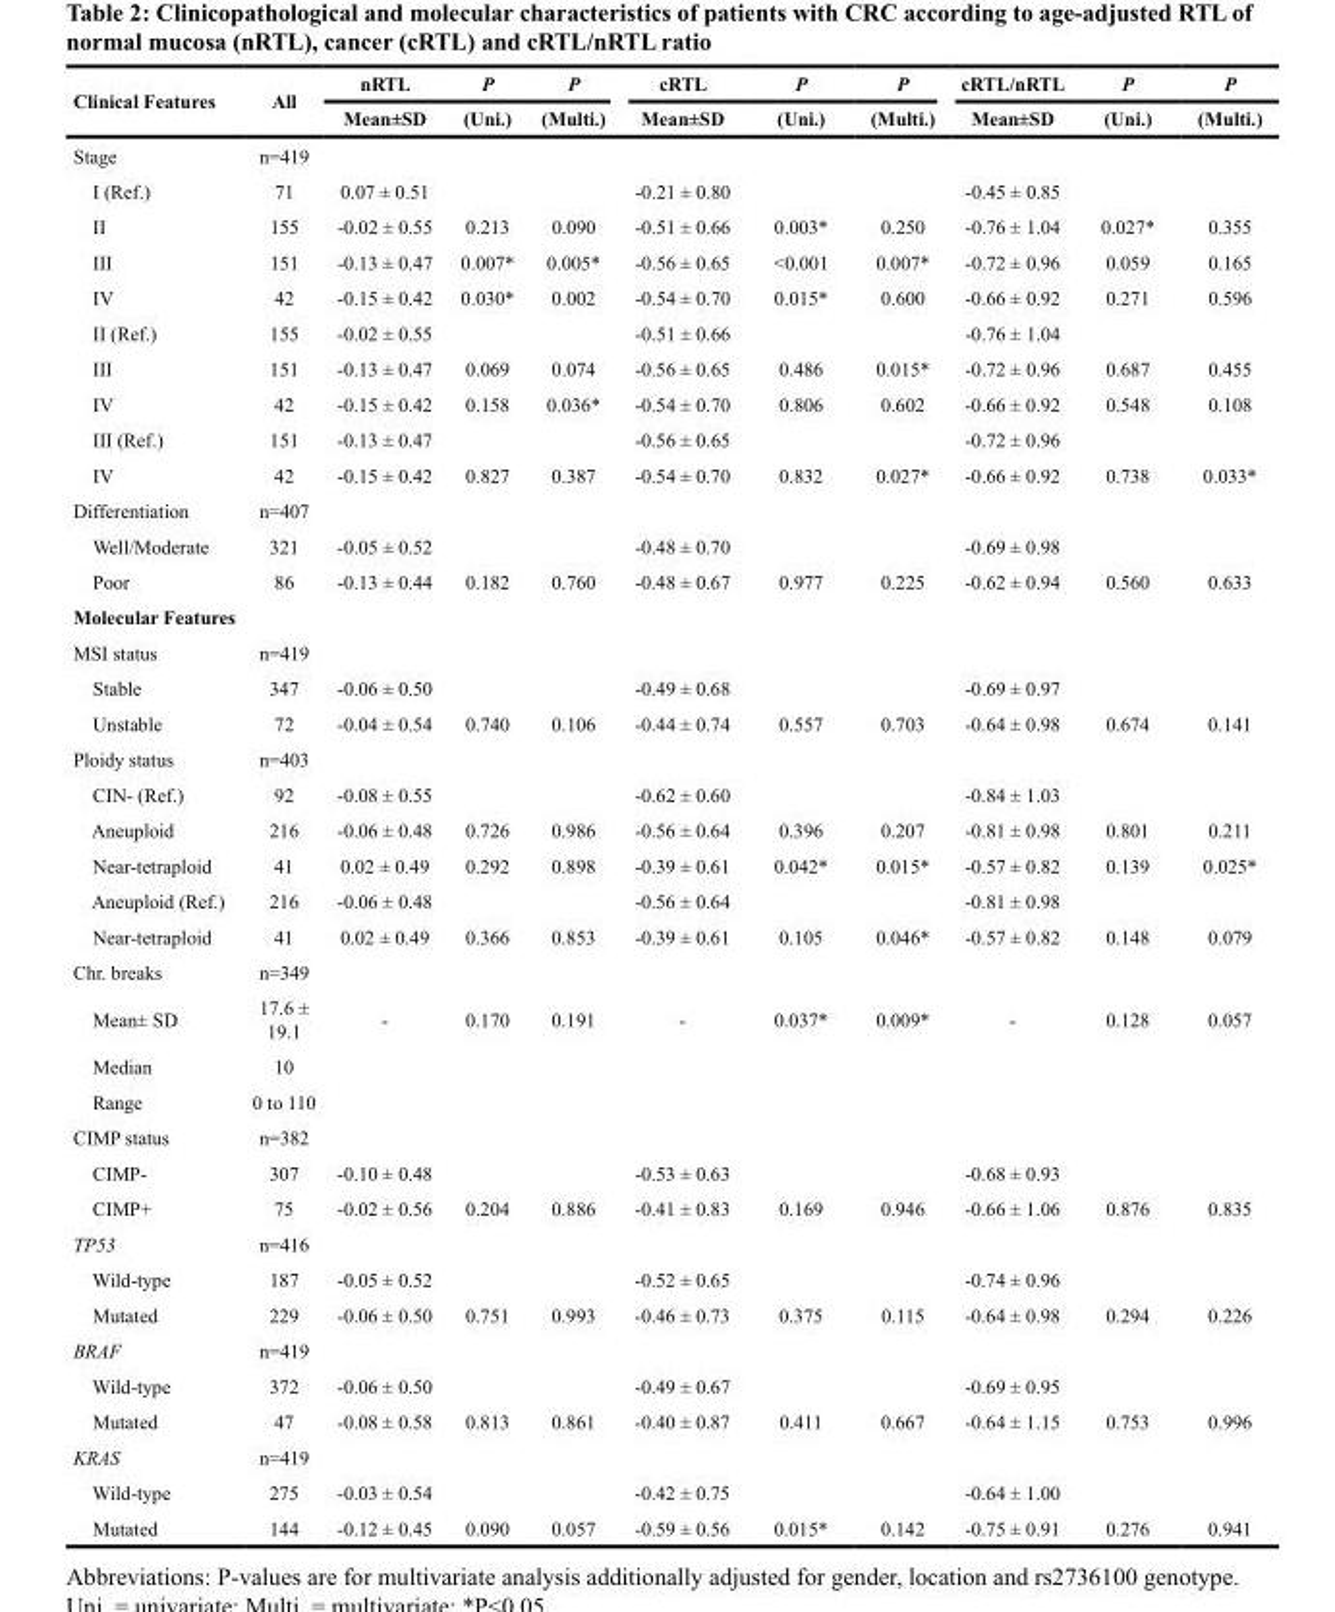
<table><thead><tr><td rowspan="2">Clinical Features</td><td rowspan="2">All</td><td rowspan="2">nRTL Mean±SD</td><td rowspan="2">P (Uni.)</td><td rowspan="2">P (Multi.)</td><td rowspan="2">cRTL Mean±SD</td><td rowspan="2">P (Uni.)</td><td rowspan="2">P (Multi.)</td><td rowspan="2">cRTL/nRTL Mean±SD</td><td rowspan="2">P (Uni.)</td><td rowspan="2">P (Multi.)</td></tr><tr></tr></thead><tbody><tr><td>Stage</td><td>n=419</td><td></td><td></td><td></td><td></td><td></td><td></td><td></td><td></td><td></td></tr><tr><td>I (Ref.)</td><td>71</td><td>0.07 ± 0.51</td><td></td><td></td><td>-0.21 ± 0.80</td><td></td><td></td><td>-0.45 ± 0.85</td><td></td><td></td></tr><tr><td>II</td><td>155</td><td>-0.02 ± 0.55</td><td>0.213</td><td>0.090</td><td>-0.51 ± 0.66</td><td>0.003*</td><td>0.250</td><td>-0.76 ± 1.04</td><td>0.027*</td><td>0.355</td></tr><tr><td>III</td><td>151</td><td>-0.13 ± 0.47</td><td>0.007*</td><td>0.005*</td><td>-0.56 ± 0.65</td><td>&lt;0.001</td><td>0.007*</td><td>-0.72 ± 0.96</td><td>0.059</td><td>0.165</td></tr><tr><td>IV</td><td>42</td><td>-0.15 ± 0.42</td><td>0.030*</td><td>0.002</td><td>-0.54 ± 0.70</td><td>0.015*</td><td>0.600</td><td>-0.66 ± 0.92</td><td>0.271</td><td>0.596</td></tr><tr><td>II (Ref.)</td><td>155</td><td>-0.02 ± 0.55</td><td></td><td></td><td>-0.51 ± 0.66</td><td></td><td></td><td>-0.76 ± 1.04</td><td></td><td></td></tr><tr><td>III</td><td>151</td><td>-0.13 ± 0.47</td><td>0.069</td><td>0.074</td><td>-0.56 ± 0.65</td><td>0.486</td><td>0.015*</td><td>-0.72 ± 0.96</td><td>0.687</td><td>0.455</td></tr><tr><td>IV</td><td>42</td><td>-0.15 ± 0.42</td><td>0.158</td><td>0.036*</td><td>-0.54 ± 0.70</td><td>0.806</td><td>0.602</td><td>-0.66 ± 0.92</td><td>0.548</td><td>0.108</td></tr><tr><td>III (Ref.)</td><td>151</td><td>-0.13 ± 0.47</td><td></td><td></td><td>-0.56 ± 0.65</td><td></td><td></td><td>-0.72 ± 0.96</td><td></td><td></td></tr><tr><td>IV</td><td>42</td><td>-0.15 ± 0.42</td><td>0.827</td><td>0.387</td><td>-0.54 ± 0.70</td><td>0.832</td><td>0.027*</td><td>-0.66 ± 0.92</td><td>0.738</td><td>0.033*</td></tr><tr><td>Differentiation</td><td>n=407</td><td></td><td></td><td></td><td></td><td></td><td></td><td></td><td></td><td></td></tr><tr><td>Well/Moderate</td><td>321</td><td>-0.05 ± 0.52</td><td></td><td></td><td>-0.48 ± 0.70</td><td></td><td></td><td>-0.69 ± 0.98</td><td></td><td></td></tr><tr><td>Poor</td><td>86</td><td>-0.13 ± 0.44</td><td>0.182</td><td>0.760</td><td>-0.48 ± 0.67</td><td>0.977</td><td>0.225</td><td>-0.62 ± 0.94</td><td>0.560</td><td>0.633</td></tr><tr><td colspan="11">Molecular Features</td></tr><tr><td>MSI status</td><td>n=419</td><td></td><td></td><td></td><td></td><td></td><td></td><td></td><td></td><td></td></tr><tr><td>Stable</td><td>347</td><td>-0.06 ± 0.50</td><td></td><td></td><td>-0.49 ± 0.68</td><td></td><td></td><td>-0.69 ± 0.97</td><td></td><td></td></tr><tr><td>Unstable</td><td>72</td><td>-0.04 ± 0.54</td><td>0.740</td><td>0.106</td><td>-0.44 ± 0.74</td><td>0.557</td><td>0.703</td><td>-0.64 ± 0.98</td><td>0.674</td><td>0.141</td></tr><tr><td>Ploidy status</td><td>n=403</td><td></td><td></td><td></td><td></td><td></td><td></td><td></td><td></td><td></td></tr><tr><td>CIN- (Ref.)</td><td>92</td><td>-0.08 ± 0.55</td><td></td><td></td><td>-0.62 ± 0.60</td><td></td><td></td><td>-0.84 ± 1.03</td><td></td><td></td></tr><tr><td>Aneuploid</td><td>216</td><td>-0.06 ± 0.48</td><td>0.726</td><td>0.986</td><td>-0.56 ± 0.64</td><td>0.396</td><td>0.207</td><td>-0.81 ± 0.98</td><td>0.801</td><td>0.211</td></tr><tr><td>Near-tetraploid</td><td>41</td><td>0.02 ± 0.49</td><td>0.292</td><td>0.898</td><td>-0.39 ± 0.61</td><td>0.042*</td><td>0.015*</td><td>-0.57 ± 0.82</td><td>0.139</td><td>0.025*</td></tr><tr><td>Aneuploid (Ref.)</td><td>216</td><td>-0.06 ± 0.48</td><td></td><td></td><td>-0.56 ± 0.64</td><td></td><td></td><td>-0.81 ± 0.98</td><td></td><td></td></tr><tr><td>Near-tetraploid</td><td>41</td><td>0.02 ± 0.49</td><td>0.366</td><td>0.853</td><td>-0.39 ± 0.61</td><td>0.105</td><td>0.046*</td><td>-0.57 ± 0.82</td><td>0.148</td><td>0.079</td></tr><tr><td>Chr. breaks</td><td>n=349</td><td></td><td></td><td></td><td></td><td></td><td></td><td></td><td></td><td></td></tr><tr><td>Mean± SD</td><td>17.6 ± 19.1</td><td>-</td><td>0.170</td><td>0.191</td><td>-</td><td>0.037*</td><td>0.009*</td><td>-</td><td>0.128</td><td>0.057</td></tr><tr><td>Median</td><td>10</td><td></td><td></td><td></td><td></td><td></td><td></td><td></td><td></td><td></td></tr><tr><td>Range</td><td>0 to 110</td><td></td><td></td><td></td><td></td><td></td><td></td><td></td><td></td><td></td></tr><tr><td>CIMP status</td><td>n=382</td><td></td><td></td><td></td><td></td><td></td><td></td><td></td><td></td><td></td></tr><tr><td>CIMP-</td><td>307</td><td>-0.10 ± 0.48</td><td></td><td></td><td>-0.53 ± 0.63</td><td></td><td></td><td>-0.68 ± 0.93</td><td></td><td></td></tr><tr><td>CIMP+</td><td>75</td><td>-0.02 ± 0.56</td><td>0.204</td><td>0.886</td><td>-0.41 ± 0.83</td><td>0.169</td><td>0.946</td><td>-0.66 ± 1.06</td><td>0.876</td><td>0.835</td></tr><tr><td>TP53</td><td>n=416</td><td></td><td></td><td></td><td></td><td></td><td></td><td></td><td></td><td></td></tr><tr><td>Wild-type</td><td>187</td><td>-0.05 ± 0.52</td><td></td><td></td><td>-0.52 ± 0.65</td><td></td><td></td><td>-0.74 ± 0.96</td><td></td><td></td></tr><tr><td>Mutated</td><td>229</td><td>-0.06 ± 0.50</td><td>0.751</td><td>0.993</td><td>-0.46 ± 0.73</td><td>0.375</td><td>0.115</td><td>-0.64 ± 0.98</td><td>0.294</td><td>0.226</td></tr><tr><td>BRAF</td><td>n=419</td><td></td><td></td><td></td><td></td><td></td><td></td><td></td><td></td><td></td></tr><tr><td>Wild-type</td><td>372</td><td>-0.06 ± 0.50</td><td></td><td></td><td>-0.49 ± 0.67</td><td></td><td></td><td>-0.69 ± 0.95</td><td></td><td></td></tr><tr><td>Mutated</td><td>47</td><td>-0.08 ± 0.58</td><td>0.813</td><td>0.861</td><td>-0.40 ± 0.87</td><td>0.411</td><td>0.667</td><td>-0.64 ± 1.15</td><td>0.753</td><td>0.996</td></tr><tr><td>KRAS</td><td>n=419</td><td></td><td></td><td></td><td></td><td></td><td></td><td></td><td></td><td></td></tr><tr><td>Wild-type</td><td>275</td><td>-0.03 ± 0.54</td><td></td><td></td><td>-0.42 ± 0.75</td><td></td><td></td><td>-0.64 ± 1.00</td><td></td><td></td></tr><tr><td>Mutated</td><td>144</td><td>-0.12 ± 0.45</td><td>0.090</td><td>0.057</td><td>-0.59 ± 0.56</td><td>0.015*</td><td>0.142</td><td>-0.75 ± 0.91</td><td>0.276</td><td>0.941</td></tr></tbody></table>